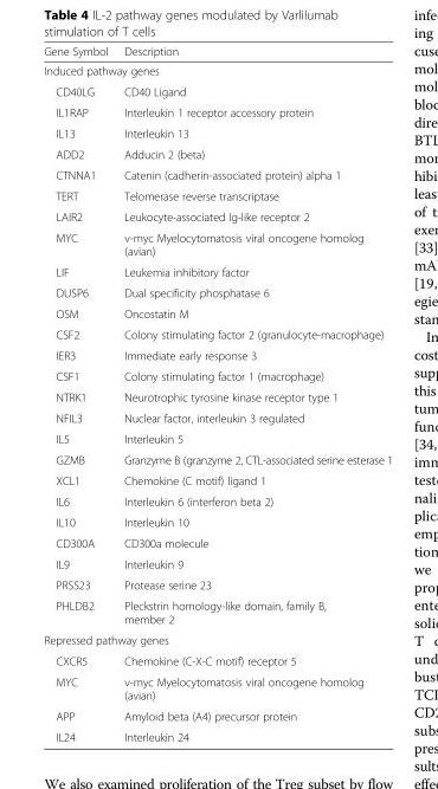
<table><thead><tr><td>Gene Symbol</td><td>Description</td></tr></thead><tbody><tr><td colspan="2">Induced pathway genes</td></tr><tr><td>CD40LG</td><td>CD40 Ligand</td></tr><tr><td>IL1RAP</td><td>Interleukin 1 receptor accessory protein</td></tr><tr><td>IL13</td><td>Interleukin 13</td></tr><tr><td>ADD2</td><td>Adducin 2 (beta)</td></tr><tr><td>CTNNA1</td><td>Catenin (cadherin-associated protein) alpha 1</td></tr><tr><td>TERT</td><td>Telomerase reverse transcriptase</td></tr><tr><td>LAIR2</td><td>Leukocyte-associated Ig-like receptor 2</td></tr><tr><td>MYC</td><td>v-myc Myelocytomatosis viral oncogene homolog (avian)</td></tr><tr><td>LIF</td><td>Leukemia inhibitory factor</td></tr><tr><td>DUSP6</td><td>Dual specificity phosphatase 6</td></tr><tr><td>OSM</td><td>Oncostatin M</td></tr><tr><td>CSF2</td><td>Colony stimulating factor 2 (granulocyte-macrophage)</td></tr><tr><td>IER3</td><td>Immediate early response 3</td></tr><tr><td>CSF1</td><td>Colony stimulating factor 1 (macrophage)</td></tr><tr><td>NTRK1</td><td>Neurotrophic tyrosine kinase receptor type 1</td></tr><tr><td>NFIL3</td><td>Nuclear factor, interleukin 3 regulated</td></tr><tr><td>IL5</td><td>Interleukin 5</td></tr><tr><td>GZMB</td><td>Granzyme B (granzyme 2, CTL-associated serine esterase 1</td></tr><tr><td>XCL1</td><td>Chemokine (C motif) ligand 1</td></tr><tr><td>IL6</td><td>Interleukin 6 (interferon beta 2)</td></tr><tr><td>IL10</td><td>Interleukin 10</td></tr><tr><td>CD300A</td><td>CD300a molecule</td></tr><tr><td>IL9</td><td>Interleukin 9</td></tr><tr><td>PRSS23</td><td>Protease serine 23</td></tr><tr><td>PHLDB2</td><td>Pleckstrin homology-like domain, family B, member 2</td></tr><tr><td colspan="2">Repressed pathway genes</td></tr><tr><td>CXCR5</td><td>Chemokine (C-X-C motif) receptor 5</td></tr><tr><td>MYC</td><td>v-myc Myelocytomatosis viral oncogene homolog (avian)</td></tr><tr><td>APP</td><td>Amyloid beta (A4) precursor protein</td></tr><tr><td>IL24</td><td>Interleukin 24</td></tr></tbody></table>